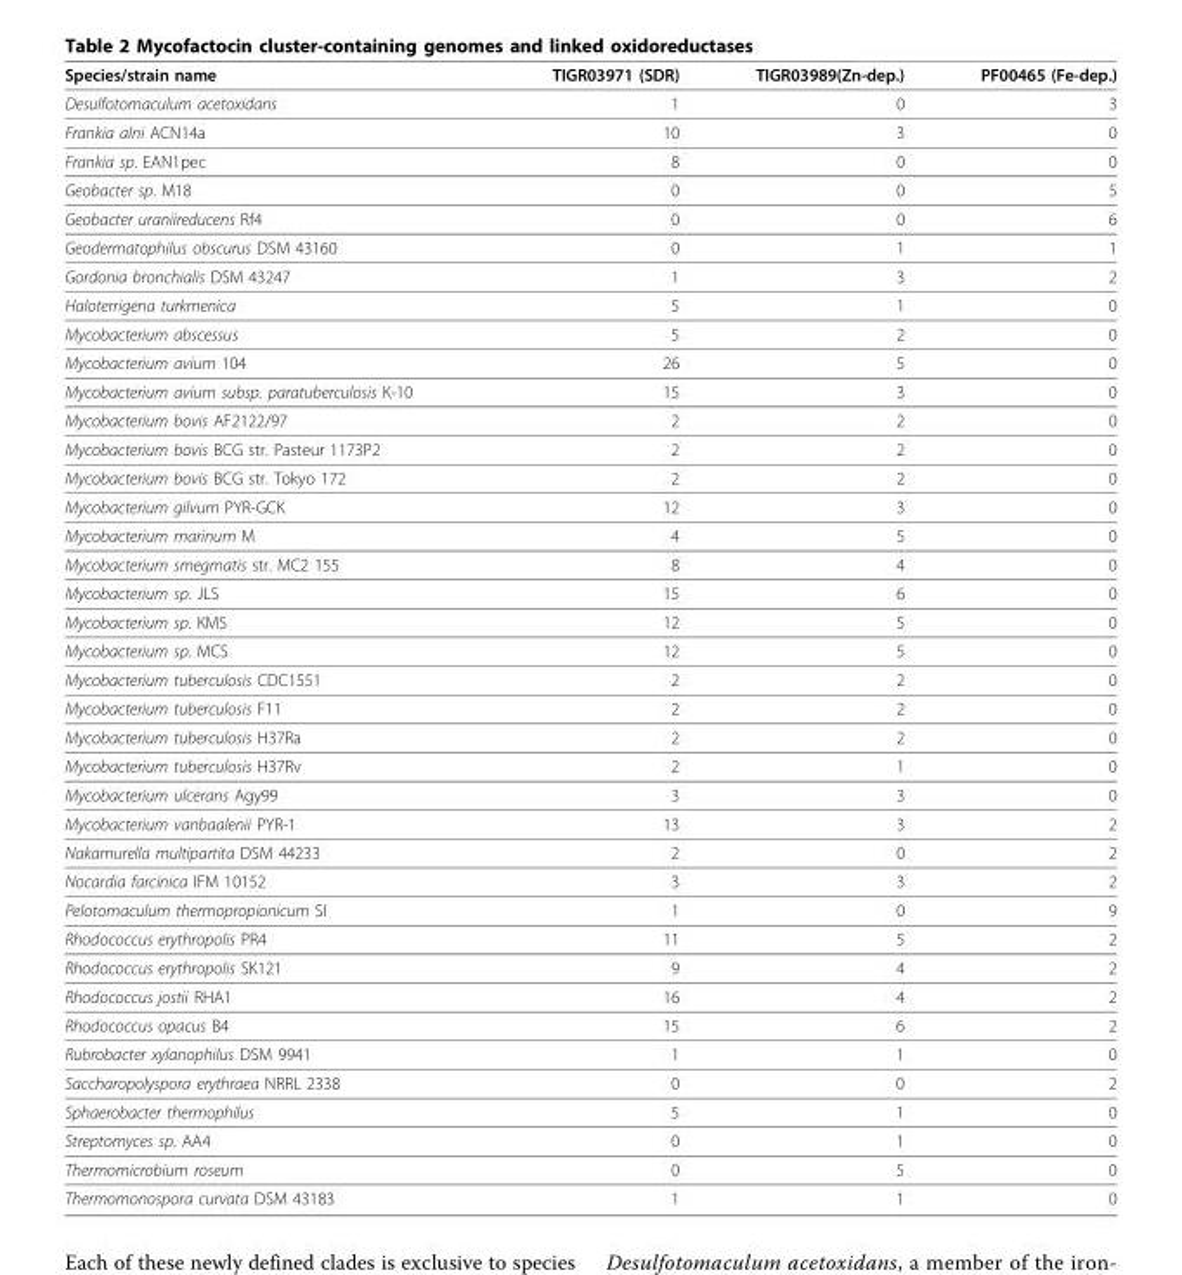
<table><thead><tr><td>Species/strain name</td><td>TIGR03971 (SDR)</td><td>TIGR03989(Zn-dep.)</td><td>PF00465 (Fe-dep.)</td></tr></thead><tbody><tr><td>Desulfotomaculum acetoxidans</td><td>1</td><td>0</td><td>3</td></tr><tr><td>Frankia alni ACN14a</td><td>10</td><td>3</td><td>0</td></tr><tr><td>Frankia sp. EAN1pec</td><td>8</td><td>0</td><td>0</td></tr><tr><td>Geobacter sp. M18</td><td>0</td><td>0</td><td>5</td></tr><tr><td>Geobacter uraniireducens Rf4</td><td>0</td><td>0</td><td>6</td></tr><tr><td>Geodermatophilus obscurus DSM 43160</td><td>0</td><td>1</td><td>1</td></tr><tr><td>Gordonia bronchialis DSM 43247</td><td>1</td><td>3</td><td>2</td></tr><tr><td>Haloterrigena turkmenica</td><td>5</td><td>1</td><td>0</td></tr><tr><td>Mycobacterium abscessus</td><td>5</td><td>2</td><td>0</td></tr><tr><td>Mycobacterium avium 104</td><td>26</td><td>5</td><td>0</td></tr><tr><td>Mycobacterium avium subsp. paratuberculosis K-10</td><td>15</td><td>3</td><td>0</td></tr><tr><td>Mycobacterium bovis AF2122/97</td><td>2</td><td>2</td><td>0</td></tr><tr><td>Mycobacterium bovis BCG str. Pasteur 1173P2</td><td>2</td><td>2</td><td>0</td></tr><tr><td>Mycobacterium bovis BCG str. Tokyo 172</td><td>2</td><td>2</td><td>0</td></tr><tr><td>Mycobacterium gilvum PYR-GCK</td><td>12</td><td>3</td><td>0</td></tr><tr><td>Mycobacterium marinum M</td><td>4</td><td>5</td><td>0</td></tr><tr><td>Mycobacterium smegmatis str. MC2 155</td><td>8</td><td>4</td><td>0</td></tr><tr><td>Mycobacterium sp. JLS</td><td>15</td><td>6</td><td>0</td></tr><tr><td>Mycobacterium sp. KMS</td><td>12</td><td>5</td><td>0</td></tr><tr><td>Mycobacterium sp. MCS</td><td>12</td><td>5</td><td>0</td></tr><tr><td>Mycobacterium tuberculosis CDC1551</td><td>2</td><td>2</td><td>0</td></tr><tr><td>Mycobacterium tuberculosis F11</td><td>2</td><td>2</td><td>0</td></tr><tr><td>Mycobacterium tuberculosis H37Ra</td><td>2</td><td>2</td><td>0</td></tr><tr><td>Mycobacterium tuberculosis H37Rv</td><td>2</td><td>1</td><td>0</td></tr><tr><td>Mycobacterium ulcerans Agy99</td><td>3</td><td>3</td><td>0</td></tr><tr><td>Mycobacterium vanbaalenii PYR-1</td><td>13</td><td>3</td><td>2</td></tr><tr><td>Nakamurella multipartita DSM 44233</td><td>2</td><td>0</td><td>2</td></tr><tr><td>Nocardia farcinica IFM 10152</td><td>3</td><td>3</td><td>2</td></tr><tr><td>Pelotomaculum thermopropionicum SI</td><td>1</td><td>0</td><td>9</td></tr><tr><td>Rhodococcus erythropolis PR4</td><td>11</td><td>5</td><td>2</td></tr><tr><td>Rhodococcus erythropolis SK121</td><td>9</td><td>4</td><td>2</td></tr><tr><td>Rhodococcus jostii RHA1</td><td>16</td><td>4</td><td>2</td></tr><tr><td>Rhodococcus opacus B4</td><td>15</td><td>6</td><td>2</td></tr><tr><td>Rubrobacter xylanophilus DSM 9941</td><td>1</td><td>1</td><td>0</td></tr><tr><td>Saccharopolyspora erythraea NRRL 2338</td><td>0</td><td>0</td><td>2</td></tr><tr><td>Sphaerobacter thermophilus</td><td>5</td><td>1</td><td>0</td></tr><tr><td>Streptomyces sp. AA4</td><td>0</td><td>1</td><td>0</td></tr><tr><td>Thermomicrobium roseum</td><td>0</td><td>5</td><td>0</td></tr><tr><td>Thermomonospora curvata DSM 43183</td><td>1</td><td>1</td><td>0</td></tr></tbody></table>